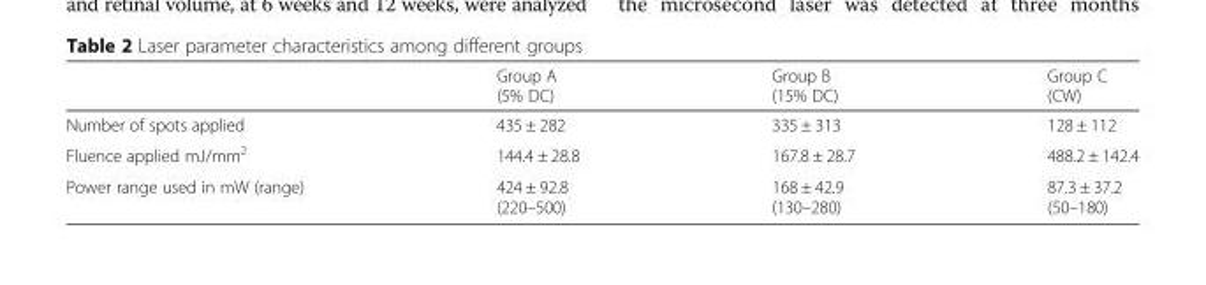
<table><thead><tr><td></td><td>Group A (5% DC)</td><td>Group B (15% DC)</td><td>Group C (CW)</td></tr></thead><tbody><tr><td>Number of spots applied</td><td>435 ± 282</td><td>335 ± 313</td><td>128 ± 112</td></tr><tr><td>Fluence applied mJ/mm<sup>2</sup></td><td>144.4 ± 28.8</td><td>167.8 ± 28.7</td><td>488.2 ± 142.4</td></tr><tr><td>Power range used in mW (range)</td><td>424 ± 92.8 (220–500)</td><td>168 ± 42.9 (130–280)</td><td>87.3 ± 37.2 (50–180)</td></tr></tbody></table>